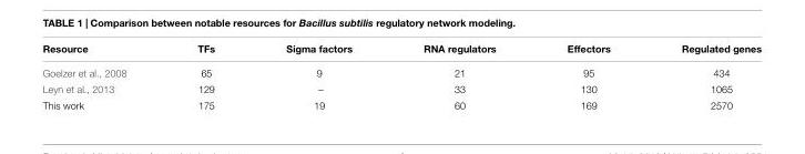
<table><thead><tr><td>Resource</td><td>TFs</td><td>Sigma factors</td><td>RNA regulators</td><td>Effectors</td><td>Regulated genes</td></tr></thead><tbody><tr><td>Goelzer et al., 2008</td><td>65</td><td>9</td><td>21</td><td>95</td><td>434</td></tr><tr><td>Leyn et al., 2013</td><td>129</td><td>–</td><td>33</td><td>130</td><td>1065</td></tr><tr><td>This work</td><td>175</td><td>19</td><td>60</td><td>169</td><td>2570</td></tr></tbody></table>